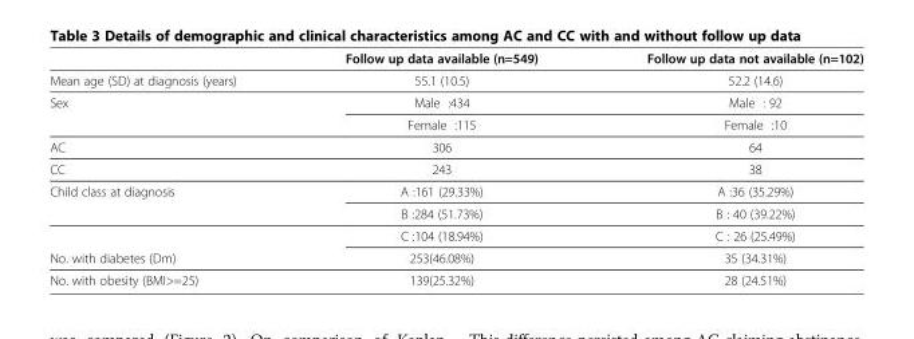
<table><thead><tr><td></td><td>Follow up data available (n=549)</td><td>Follow up data not available (n=102)</td></tr></thead><tbody><tr><td>Mean age (SD) at diagnosis (years)</td><td>55.1 (10.5)</td><td>52.2 (14.6)</td></tr><tr><td rowspan="2">Sex</td><td>Male :434</td><td>Male : 92</td></tr><tr><td>Female :115</td><td>Female :10</td></tr><tr><td>AC</td><td>306</td><td>64</td></tr><tr><td>CC</td><td>243</td><td>38</td></tr><tr><td rowspan="3">Child class at diagnosis</td><td>A :161 (29.33%)</td><td>A :36 (35.29%)</td></tr><tr><td>B :284 (51.73%)</td><td>B : 40 (39.22%)</td></tr><tr><td>C :104 (18.94%)</td><td>C : 26 (25.49%)</td></tr><tr><td>No. with diabetes (Dm)</td><td>253(46.08%)</td><td>35 (34.31%)</td></tr><tr><td>No. with obesity (BMI&gt;=25)</td><td>139(25.32%)</td><td>28 (24.51%)</td></tr></tbody></table>